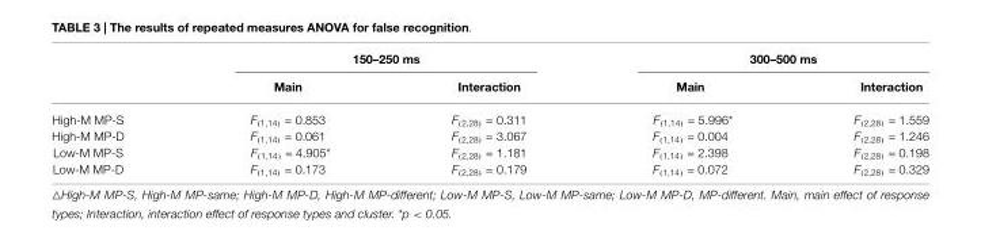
<table><thead><tr><td rowspan="2"></td><td colspan="2">150–250 ms</td><td colspan="2">300–500 ms</td></tr><tr><td>Main</td><td>Interaction</td><td>Main</td><td>Interaction</td></tr></thead><tbody><tr><td>High-M MP-S</td><td>F<sub>(1,14)</sub> = 0.853</td><td>F<sub>(2,28)</sub> = 0.311</td><td>F<sub>(1,14)</sub> = 5.996*</td><td>F<sub>(2,28)</sub> = 1.559</td></tr><tr><td>High-M MP-D</td><td>F<sub>(1,14)</sub> = 0.061</td><td>F<sub>(2,28)</sub> = 3.067</td><td>F<sub>(1,14)</sub> = 0.004</td><td>F<sub>(2,28)</sub> = 1.246</td></tr><tr><td>Low-M MP-S</td><td>F<sub>(1,14)</sub> = 4.905*</td><td>F<sub>(2,28)</sub> = 1.181</td><td>F<sub>(1,14)</sub> = 2.398</td><td>F<sub>(2,28)</sub> = 0.198</td></tr><tr><td>Low-M MP-D</td><td>F<sub>(1,14)</sub> = 0.173</td><td>F<sub>(2,28)</sub> = 0.179</td><td>F<sub>(1,14)</sub> = 0.072</td><td>F<sub>(2,28)</sub> = 0.329</td></tr></tbody></table>